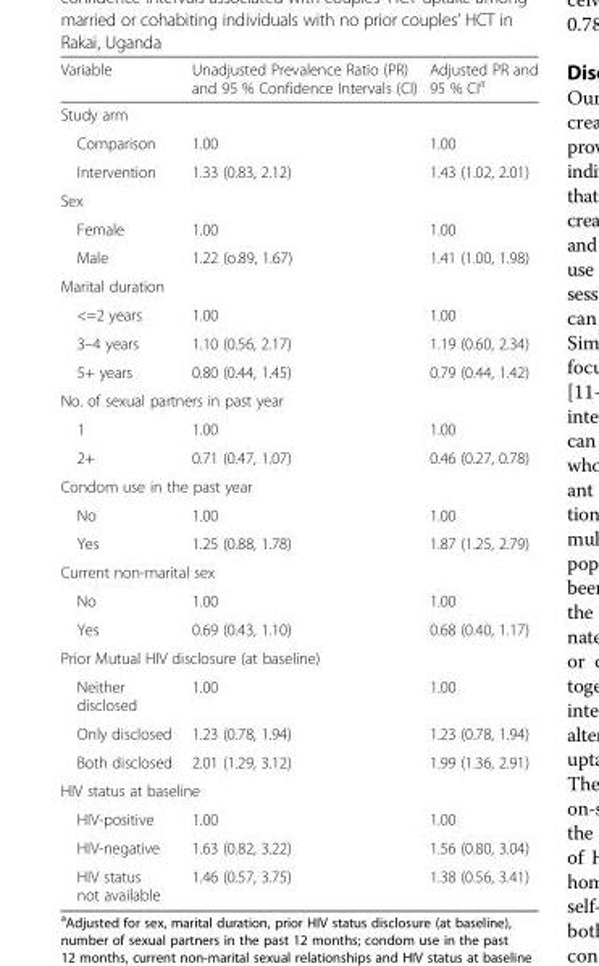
<table><thead><tr><td>Variable</td><td>Unadjusted Prevalence Ratio (PR) and 95 % Confidence Intervals (CI)</td><td>Adjusted PR and 95 % CI<sup>a</sup></td></tr></thead><tbody><tr><td colspan="3">Study arm</td></tr><tr><td>Comparison</td><td>1.00</td><td>1.00</td></tr><tr><td>Intervention</td><td>1.33 (0.83, 2.12)</td><td>1.43 (1.02, 2.01)</td></tr><tr><td colspan="3">Sex</td></tr><tr><td>Female</td><td>1.00</td><td>1.00</td></tr><tr><td>Male</td><td>1.22 (o.89, 1.67)</td><td>1.41 (1.00, 1.98)</td></tr><tr><td colspan="3">Marital duration</td></tr><tr><td>&lt;=2 years</td><td>1.00</td><td>1.00</td></tr><tr><td>3–4 years</td><td>1.10 (0.56, 2.17)</td><td>1.19 (0.60, 2.34)</td></tr><tr><td>5+ years</td><td>0.80 (0.44, 1.45)</td><td>0.79 (0.44, 1.42)</td></tr><tr><td colspan="3">No. of sexual partners in past year</td></tr><tr><td>1</td><td>1.00</td><td>1.00</td></tr><tr><td>2+</td><td>0.71 (0.47, 1.07)</td><td>0.46 (0.27, 0.78)</td></tr><tr><td colspan="3">Condom use in the past year</td></tr><tr><td>No</td><td>1.00</td><td>1.00</td></tr><tr><td>Yes</td><td>1.25 (0.88, 1.78)</td><td>1.87 (1.25, 2.79)</td></tr><tr><td colspan="3">Current non-marital sex</td></tr><tr><td>No</td><td>1.00</td><td>1.00</td></tr><tr><td>Yes</td><td>0.69 (0.43, 1.10)</td><td>0.68 (0.40, 1.17)</td></tr><tr><td colspan="3">Prior Mutual HIV disclosure (at baseline)</td></tr><tr><td>Neither disclosed</td><td>1.00</td><td>1.00</td></tr><tr><td>Only disclosed</td><td>1.23 (0.78, 1.94)</td><td>1.23 (0.78, 1.94)</td></tr><tr><td>Both disclosed</td><td>2.01 (1.29, 3.12)</td><td>1.99 (1.36, 2.91)</td></tr><tr><td colspan="3">HIV status at baseline</td></tr><tr><td>HIV-positive</td><td>1.00</td><td>1.00</td></tr><tr><td>HIV-negative</td><td>1.63 (0.82, 3.22)</td><td>1.56 (0.80, 3.04)</td></tr><tr><td>HIV status not available</td><td>1.46 (0.57, 3.75)</td><td>1.38 (0.56, 3.41)</td></tr></tbody></table>